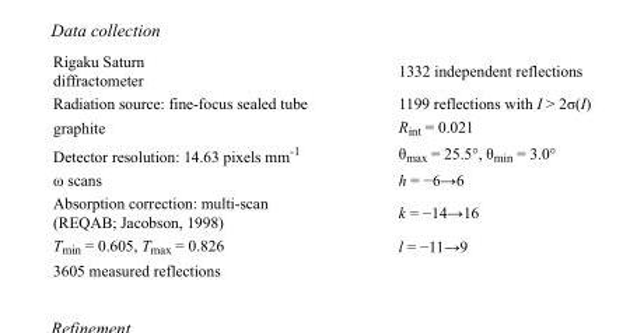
<table><tbody><tr><td>Rigaku Saturn diffractometer</td><td>1332 independent reflections</td></tr><tr><td>Radiation source: fine-focus sealed tube</td><td>1199 reflections with I &gt; 2σ(I)</td></tr><tr><td>graphite</td><td>R<sub>int</sub> = 0.021</td></tr><tr><td>Detector resolution: 14.63 pixels mm<sup>-1</sup></td><td>θ<sub>max</sub> = 25.5°, θ<sub>min</sub> = 3.0°</td></tr><tr><td>ω scans</td><td>h = −6→6</td></tr><tr><td>Absorption correction: multi-scan (REQAB; Jacobson, 1998)</td><td>k = −14→16</td></tr><tr><td>T<sub>min</sub> = 0.605, T<sub>max</sub> = 0.826</td><td>l = −11→9</td></tr><tr><td>3605 measured reflections</td><td></td></tr></tbody></table>